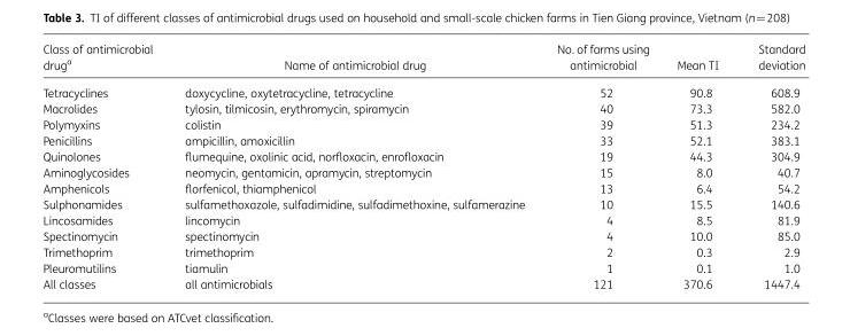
<table><thead><tr><td>Class of antimicrobial drug<sup>a</sup></td><td>Name of antimicrobial drug</td><td>No. of farms using antimicrobial</td><td>Mean TI</td><td>Standard deviation</td></tr></thead><tbody><tr><td>Tetracyclines</td><td>doxycycline, oxytetracycline, tetracycline</td><td>52</td><td>90.8</td><td>608.9</td></tr><tr><td>Macrolides</td><td>tylosin, tilmicosin, erythromycin, spiramycin</td><td>40</td><td>73.3</td><td>582.0</td></tr><tr><td>Polymyxins</td><td>colistin</td><td>39</td><td>51.3</td><td>234.2</td></tr><tr><td>Penicillins</td><td>ampicillin, amoxicillin</td><td>33</td><td>52.1</td><td>383.1</td></tr><tr><td>Quinolones</td><td>flumequine, oxolinic acid, norfloxacin, enrofloxacin</td><td>19</td><td>44.3</td><td>304.9</td></tr><tr><td>Aminoglycosides</td><td>neomycin, gentamicin, apramycin, streptomycin</td><td>15</td><td>8.0</td><td>40.7</td></tr><tr><td>Amphenicols</td><td>florfenicol, thiamphenicol</td><td>13</td><td>6.4</td><td>54.2</td></tr><tr><td>Sulphonamides</td><td>sulfamethoxazole, sulfadimidine, sulfadimethoxine, sulfamerazine</td><td>10</td><td>15.5</td><td>140.6</td></tr><tr><td>Lincosamides</td><td>lincomycin</td><td>4</td><td>8.5</td><td>81.9</td></tr><tr><td>Spectinomycin</td><td>spectinomycin</td><td>4</td><td>10.0</td><td>85.0</td></tr><tr><td>Trimethoprim</td><td>trimethoprim</td><td>2</td><td>0.3</td><td>2.9</td></tr><tr><td>Pleuromutilins</td><td>tiamulin</td><td>1</td><td>0.1</td><td>1.0</td></tr><tr><td>All classes</td><td>all antimicrobials</td><td>121</td><td>370.6</td><td>1447.4</td></tr></tbody></table>